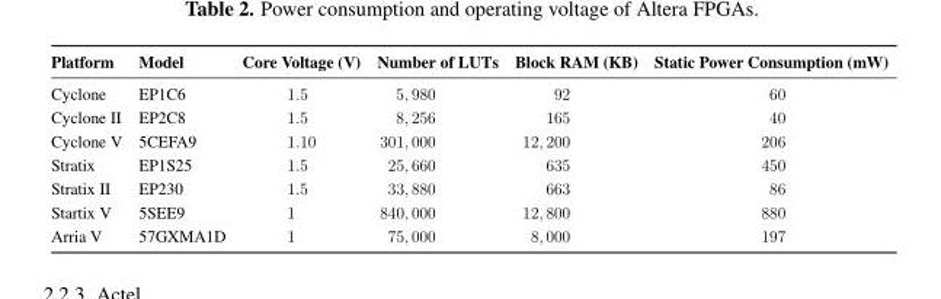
<table><thead><tr><td>Platform</td><td>Model</td><td>Core Voltage (V)</td><td>Number of LUTs</td><td>Block RAM (KB)</td><td>Static Power Consumption (mW)</td></tr></thead><tbody><tr><td>Cyclone</td><td>EP1C6</td><td>1.5</td><td>5, 980</td><td>92</td><td>60</td></tr><tr><td>Cyclone II</td><td>EP2C8</td><td>1.5</td><td>8, 256</td><td>165</td><td>40</td></tr><tr><td>Cyclone V</td><td>5CEFA9</td><td>1.10</td><td>301, 000</td><td>12, 200</td><td>206</td></tr><tr><td>Stratix</td><td>EP1S25</td><td>1.5</td><td>25, 660</td><td>635</td><td>450</td></tr><tr><td>Stratix II</td><td>EP230</td><td>1.5</td><td>33, 880</td><td>663</td><td>86</td></tr><tr><td>Startix V</td><td>5SEE9</td><td>1</td><td>840, 000</td><td>12, 800</td><td>880</td></tr><tr><td>Arria V</td><td>57GXMA1D</td><td>1</td><td>75, 000</td><td>8, 000</td><td>197</td></tr></tbody></table>